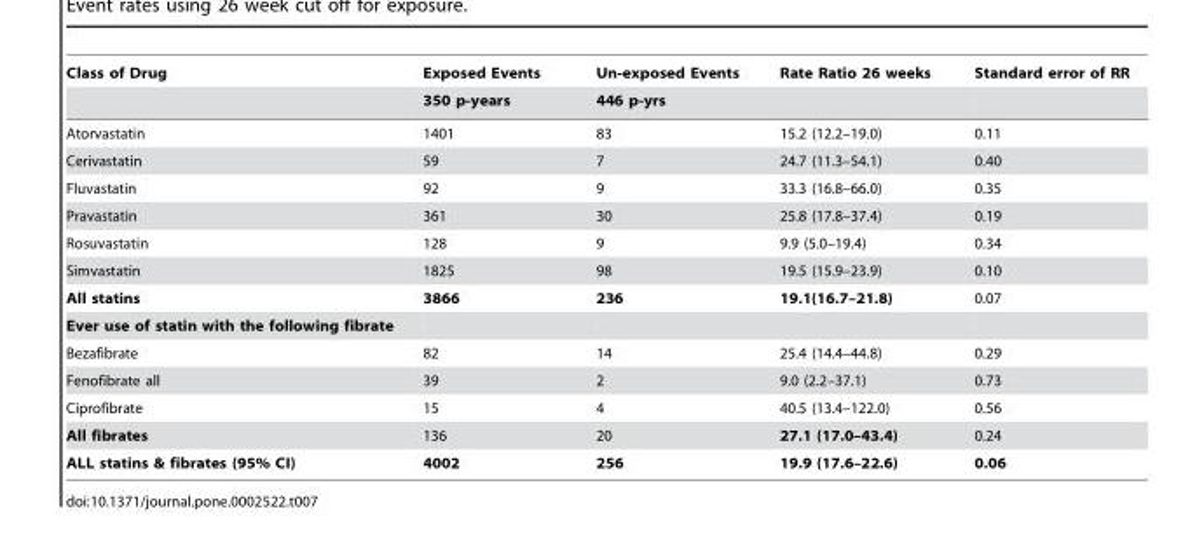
<table><thead><tr><td rowspan="2">Class of Drug</td><td rowspan="2">Exposed Events 350 p-years</td><td rowspan="2">Un-exposed Events 446 p-yrs</td><td rowspan="2">Rate Ratio 26 weeks</td><td rowspan="2">Standard error of RR</td></tr><tr></tr></thead><tbody><tr><td>Atorvastatin</td><td>1401</td><td>83</td><td>15.2 (12.2–19.0)</td><td>0.11</td></tr><tr><td>Cerivastatin</td><td>59</td><td>7</td><td>24.7 (11.3–54.1)</td><td>0.40</td></tr><tr><td>Fluvastatin</td><td>92</td><td>9</td><td>33.3 (16.8–66.0)</td><td>0.35</td></tr><tr><td>Pravastatin</td><td>361</td><td>30</td><td>25.8 (17.8–37.4)</td><td>0.19</td></tr><tr><td>Rosuvastatin</td><td>128</td><td>9</td><td>9.9 (5.0–19.4)</td><td>0.34</td></tr><tr><td>Simvastatin</td><td>1825</td><td>98</td><td>19.5 (15.9–23.9)</td><td>0.10</td></tr><tr><td>All statins</td><td>3866</td><td>236</td><td>19.1(16.7–21.8)</td><td>0.07</td></tr><tr><td colspan="5">Ever use of statin with the following fibrate</td></tr><tr><td>Bezafibrate</td><td>82</td><td>14</td><td>25.4 (14.4–44.8)</td><td>0.29</td></tr><tr><td>Fenofibrate all</td><td>39</td><td>2</td><td>9.0 (2.2–37.1)</td><td>0.73</td></tr><tr><td>Ciprofibrate</td><td>15</td><td>4</td><td>40.5 (13.4–122.0)</td><td>0.56</td></tr><tr><td>All fibrates</td><td>136</td><td>20</td><td>27.1 (17.0–43.4)</td><td>0.24</td></tr><tr><td>ALL statins &amp; fibrates (95% CI)</td><td>4002</td><td>256</td><td>19.9 (17.6–22.6)</td><td>0.06</td></tr></tbody></table>